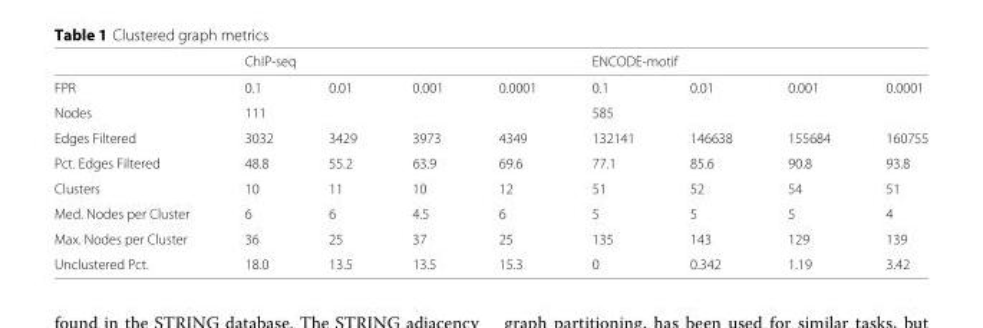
<table><thead><tr><td rowspan="2">FPR</td><td colspan="4">ChIP-seq</td><td colspan="4">ENCODE-motif</td></tr><tr><td>0.1</td><td>0.01</td><td>0.001</td><td>0.0001</td><td>0.1</td><td>0.01</td><td>0.001</td><td>0.0001</td></tr></thead><tbody><tr><td>Nodes</td><td colspan="4">111</td><td colspan="4">585</td></tr><tr><td>Edges Filtered</td><td>3032</td><td>3429</td><td>3973</td><td>4349</td><td>132141</td><td>146638</td><td>155684</td><td>160755</td></tr><tr><td>Pct. Edges Filtered</td><td>48.8</td><td>55.2</td><td>63.9</td><td>69.6</td><td>77.1</td><td>85.6</td><td>90.8</td><td>93.8</td></tr><tr><td>Clusters</td><td>10</td><td>11</td><td>10</td><td>12</td><td>51</td><td>52</td><td>54</td><td>51</td></tr><tr><td>Med. Nodes per Cluster</td><td>6</td><td>6</td><td>4.5</td><td>6</td><td>5</td><td>5</td><td>5</td><td>4</td></tr><tr><td>Max. Nodes per Cluster</td><td>36</td><td>25</td><td>37</td><td>25</td><td>135</td><td>143</td><td>129</td><td>139</td></tr><tr><td>Unclustered Pct.</td><td>18.0</td><td>13.5</td><td>13.5</td><td>15.3</td><td>0</td><td>0.342</td><td>1.19</td><td>3.42</td></tr></tbody></table>